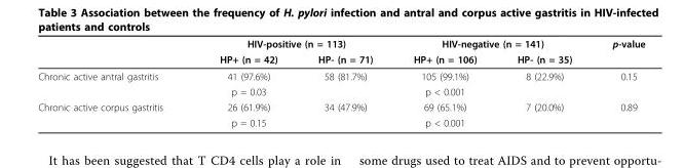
<table><thead><tr><td rowspan="2"></td><td colspan="2">HIV-positive (n = 113)</td><td colspan="2">HIV-negative (n = 141)</td><td rowspan="2">p-value</td></tr><tr><td>HP+ (n = 42)</td><td>HP- (n = 71)</td><td>HP+ (n = 106)</td><td>HP- (n = 35)</td></tr></thead><tbody><tr><td rowspan="2">Chronic active antral gastritis</td><td>41 (97.6%)</td><td>58 (81.7%)</td><td>105 (99.1%)</td><td>8 (22.9%)</td><td>0.15</td></tr><tr><td>p = 0.03</td><td></td><td>p &lt; 0.001</td><td></td><td></td></tr><tr><td rowspan="2">Chronic active corpus gastritis</td><td>26 (61.9%)</td><td>34 (47.9%)</td><td>69 (65.1%)</td><td>7 (20.0%)</td><td>0.89</td></tr><tr><td>p = 0.15</td><td></td><td>p &lt; 0.001</td><td></td><td></td></tr></tbody></table>